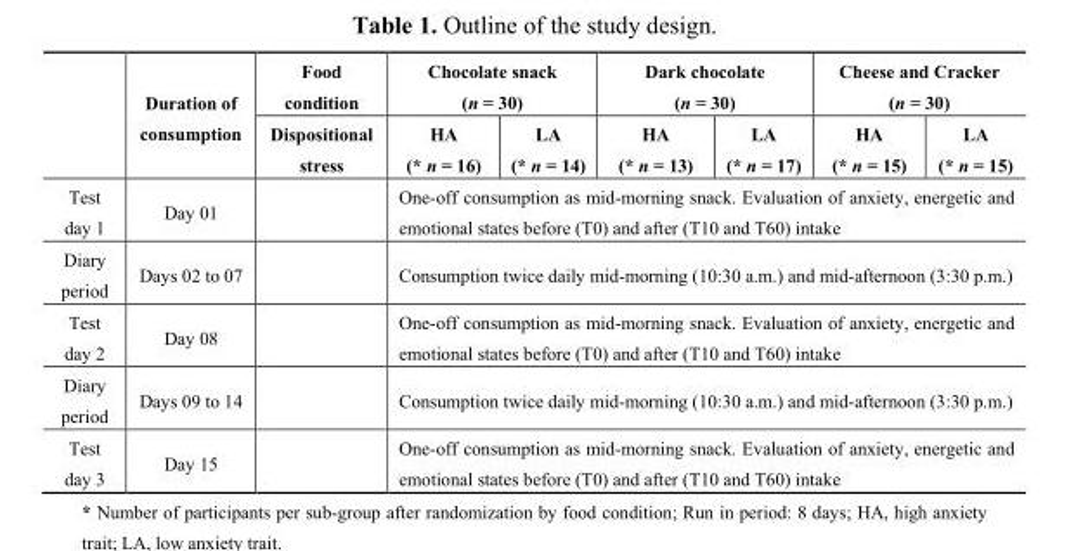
<table><thead><tr><td rowspan="2"></td><td rowspan="2">Duration of consumption</td><td rowspan="2">Food condition Dispositional stress</td><td colspan="2">Chocolate snack (n = 30)</td><td colspan="2">Dark chocolate (n = 30)</td><td colspan="2">Cheese and Cracker (n = 30)</td></tr><tr><td>HA (* n = 16)</td><td>LA (* n = 14)</td><td>HA (* n = 13)</td><td>LA (* n = 17)</td><td>HA (* n = 15)</td><td>LA (* n = 15)</td></tr></thead><tbody><tr><td>Test day 1</td><td>Day 01</td><td></td><td colspan="6">One-off consumption as mid-morning snack. Evaluation of anxiety, energetic and emotional states before (T0) and after (T10 and T60) intake</td></tr><tr><td>Diary period</td><td>Days 02 to 07</td><td></td><td colspan="6">Consumption twice daily mid-morning (10:30 a.m.) and mid-afternoon (3:30 p.m.)</td></tr><tr><td>Test day 2</td><td>Day 08</td><td></td><td colspan="6">One-off consumption as mid-morning snack. Evaluation of anxiety, energetic and emotional states before (T0) and after (T10 and T60) intake</td></tr><tr><td>Diary period</td><td>Days 09 to 14</td><td></td><td colspan="6">Consumption twice daily mid-morning (10:30 a.m.) and mid-afternoon (3:30 p.m.)</td></tr><tr><td>Test day 3</td><td>Day 15</td><td></td><td colspan="6">One-off consumption as mid-morning snack. Evaluation of anxiety, energetic and emotional states before (T0) and after (T10 and T60) intake</td></tr></tbody></table>